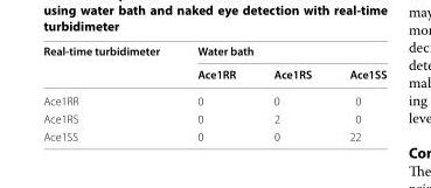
<table><thead><tr><td rowspan="2">Real‑time turbidimeter</td><td colspan="3">Water bath</td></tr><tr><td>Ace1RR</td><td>Ace1RS</td><td>Ace1SS</td></tr></thead><tbody><tr><td>Ace1RR</td><td>0</td><td>0</td><td>0</td></tr><tr><td>Ace1RS</td><td>0</td><td>2</td><td>0</td></tr><tr><td>Ace1SS</td><td>0</td><td>0</td><td>22</td></tr></tbody></table>